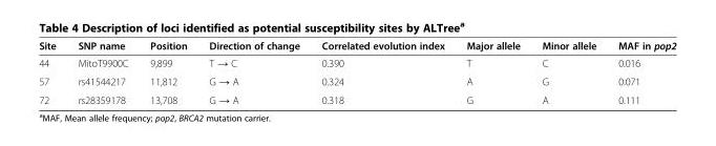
<table><thead><tr><td>Site</td><td>SNP name</td><td>Position</td><td>Direction of change</td><td>Correlated evolution index</td><td>Major allele</td><td>Minor allele</td><td>MAF in pop2</td></tr></thead><tbody><tr><td>44</td><td>MitoT9900C</td><td>9,899</td><td>T → C</td><td>0.390</td><td>T</td><td>C</td><td>0.016</td></tr><tr><td>57</td><td>rs41544217</td><td>11,812</td><td>G → A</td><td>0.324</td><td>A</td><td>G</td><td>0.071</td></tr><tr><td>72</td><td>rs28359178</td><td>13,708</td><td>G → A</td><td>0.318</td><td>G</td><td>A</td><td>0.111</td></tr></tbody></table>